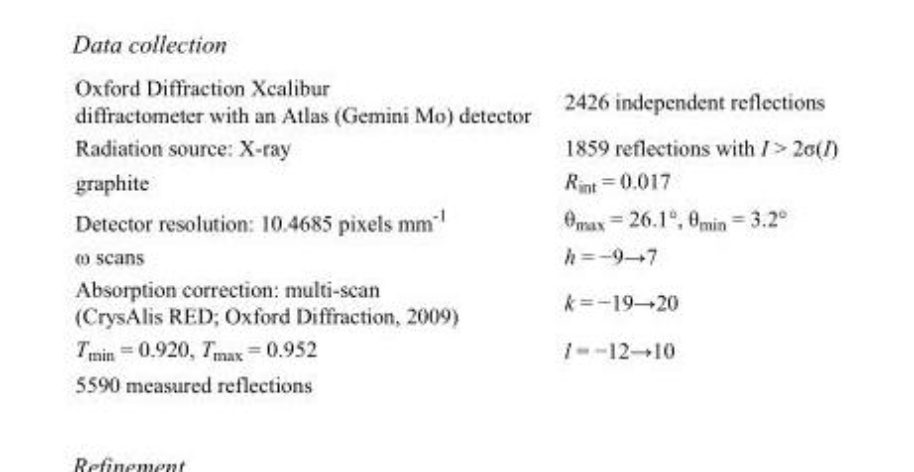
<table><tbody><tr><td>Oxford Diffraction Xcalibur diffractometer with an Atlas (Gemini Mo) detector</td><td>2426 independent reflections</td></tr><tr><td>Radiation source: X-ray</td><td>1859 reflections with I &gt; 2σ(I)</td></tr><tr><td>graphite</td><td>R<sub>int</sub> = 0.017</td></tr><tr><td>Detector resolution: 10.4685 pixels mm<sup>-1</sup></td><td>θ<sub>max</sub> = 26.1°, θ<sub>min</sub> = 3.2°</td></tr><tr><td>ω scans</td><td>h = −9→7</td></tr><tr><td>Absorption correction: multi-scan (CrysAlis RED; Oxford Diffraction, 2009)</td><td>k = −19→20</td></tr><tr><td>T<sub>min</sub> = 0.920, T<sub>max</sub> = 0.952</td><td>l = −12→10</td></tr><tr><td>5590 measured reflections</td><td></td></tr></tbody></table>